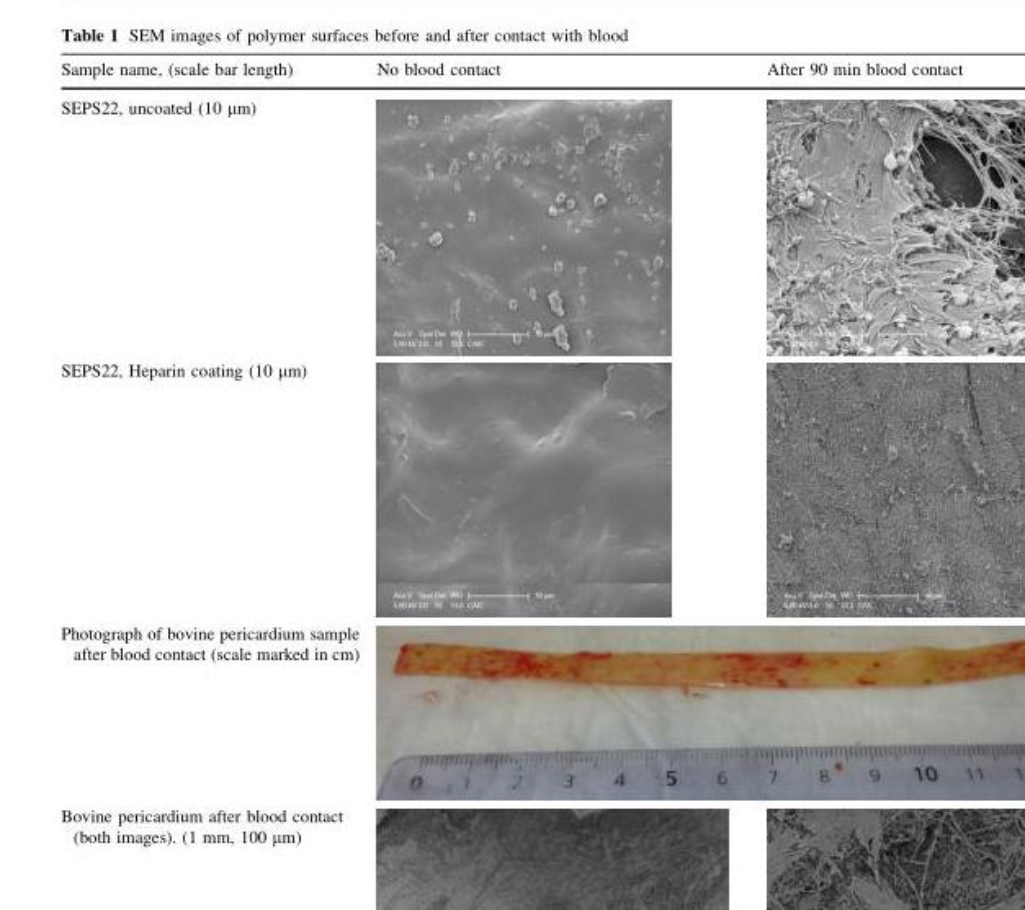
<table><thead><tr><td>Sample name, (scale bar length)</td><td>No blood contact</td><td>After 90 min blood contact</td></tr></thead><tbody><tr><td colspan="3">SEPS22, uncoated (10 µm)</td></tr><tr><td colspan="3">SEPS22, Heparin coating (10 µm)</td></tr><tr><td colspan="3">Photograph of bovine pericardium sample after blood contact (scale marked in cm)</td></tr><tr><td>Bovine pericardium after blood contact (both images). (1 mm, 100 µm)</td><td></td><td></td></tr></tbody></table>